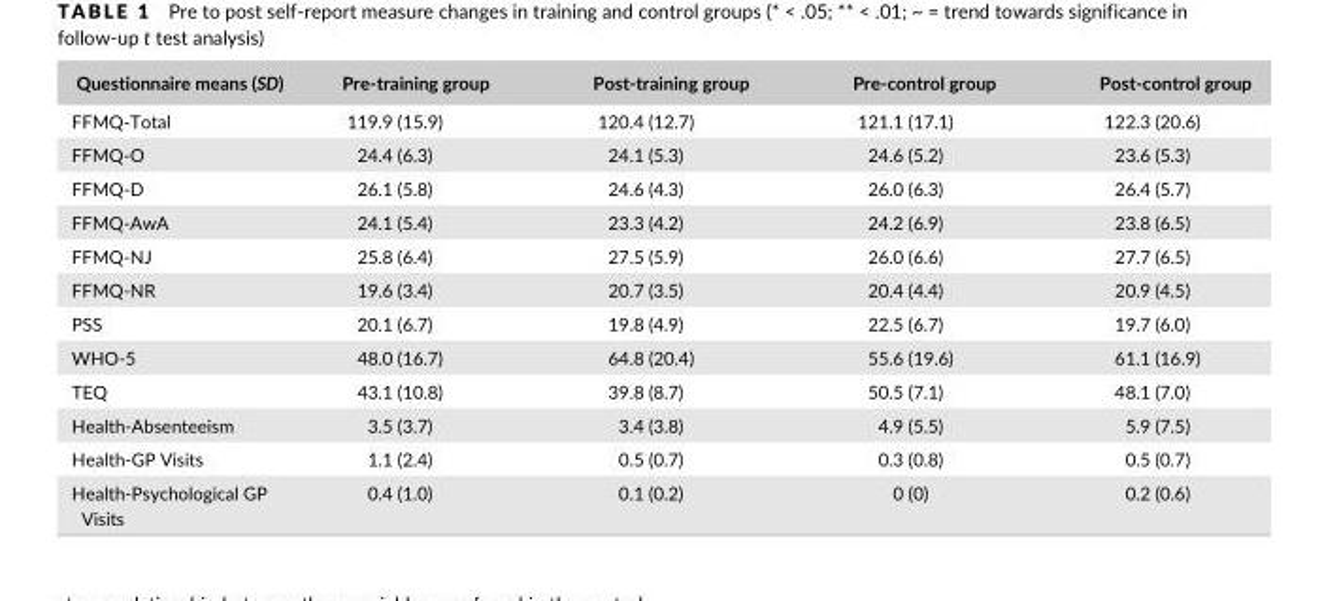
<table><thead><tr><td>Questionnaire means (SD)</td><td>Pre- training group</td><td>Post- training group</td><td>Pre- control group</td><td>Post- control group</td></tr></thead><tbody><tr><td>FFMQ- Total</td><td>119.9 (15.9)</td><td>120.4 (12.7)</td><td>121.1 (17.1)</td><td>122.3 (20.6)</td></tr><tr><td>FFMQ- O</td><td>24.4 (6.3)</td><td>24.1 (5.3)</td><td>24.6 (5.2)</td><td>23.6 (5.3)</td></tr><tr><td>FFMQ- D</td><td>26.1 (5.8)</td><td>24.6 (4.3)</td><td>26.0 (6.3)</td><td>26.4 (5.7)</td></tr><tr><td>FFMQ- AwA</td><td>24.1 (5.4)</td><td>23.3 (4.2)</td><td>24.2 (6.9)</td><td>23.8 (6.5)</td></tr><tr><td>FFMQ- NJ</td><td>25.8 (6.4)</td><td>27.5 (5.9)</td><td>26.0 (6.6)</td><td>27.7 (6.5)</td></tr><tr><td>FFMQ- NR</td><td>19.6 (3.4)</td><td>20.7 (3.5)</td><td>20.4 (4.4)</td><td>20.9 (4.5)</td></tr><tr><td>PSS</td><td>20.1 (6.7)</td><td>19.8 (4.9)</td><td>22.5 (6.7)</td><td>19.7 (6.0)</td></tr><tr><td>WHO- 5</td><td>48.0 (16.7)</td><td>64.8 (20.4)</td><td>55.6 (19.6)</td><td>61.1 (16.9)</td></tr><tr><td>TEQ</td><td>43.1 (10.8)</td><td>39.8 (8.7)</td><td>50.5 (7.1)</td><td>48.1 (7.0)</td></tr><tr><td>Health- Absenteeism</td><td>3.5 (3.7)</td><td>3.4 (3.8)</td><td>4.9 (5.5)</td><td>5.9 (7.5)</td></tr><tr><td>Health- GP Visits</td><td>1.1 (2.4)</td><td>0.5 (0.7)</td><td>0.3 (0.8)</td><td>0.5 (0.7)</td></tr><tr><td>Health- Psychological GP Visits</td><td>0.4 (1.0)</td><td>0.1 (0.2)</td><td>0 (0)</td><td>0.2 (0.6)</td></tr></tbody></table>